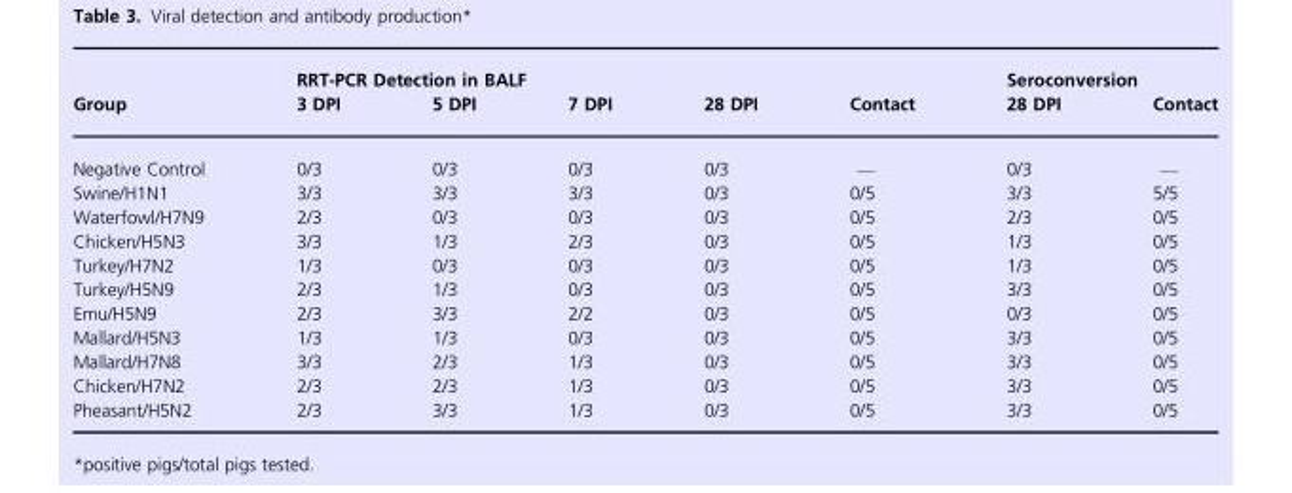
<table><thead><tr><td rowspan="2">Group</td><td colspan="5">RRT-PCR Detection in BALF</td><td colspan="2">Seroconversion</td></tr><tr><td>3 DPI</td><td>5 DPI</td><td>7 DPI</td><td>28 DPI</td><td>Contact</td><td>28 DPI</td><td>Contact</td></tr></thead><tbody><tr><td>Negative Control</td><td>0/3</td><td>0/3</td><td>0/3</td><td>0/3</td><td>—</td><td>0/3</td><td>—</td></tr><tr><td>Swine/H1N1</td><td>3/3</td><td>3/3</td><td>3/3</td><td>0/3</td><td>0/5</td><td>3/3</td><td>5/5</td></tr><tr><td>Waterfowl/H7N9</td><td>2/3</td><td>0/3</td><td>0/3</td><td>0/3</td><td>0/5</td><td>2/3</td><td>0/5</td></tr><tr><td>Chicken/H5N3</td><td>3/3</td><td>1/3</td><td>2/3</td><td>0/3</td><td>0/5</td><td>1/3</td><td>0/5</td></tr><tr><td>Turkey/H7N2</td><td>1/3</td><td>0/3</td><td>0/3</td><td>0/3</td><td>0/5</td><td>1/3</td><td>0/5</td></tr><tr><td>Turkey/H5N9</td><td>2/3</td><td>1/3</td><td>0/3</td><td>0/3</td><td>0/5</td><td>3/3</td><td>0/5</td></tr><tr><td>Emu/H5N9</td><td>2/3</td><td>3/3</td><td>2/2</td><td>0/3</td><td>0/5</td><td>0/3</td><td>0/5</td></tr><tr><td>Mallard/H5N3</td><td>1/3</td><td>1/3</td><td>0/3</td><td>0/3</td><td>0/5</td><td>3/3</td><td>0/5</td></tr><tr><td>Mallard/H7N8</td><td>3/3</td><td>2/3</td><td>1/3</td><td>0/3</td><td>0/5</td><td>3/3</td><td>0/5</td></tr><tr><td>Chicken/H7N2</td><td>2/3</td><td>2/3</td><td>1/3</td><td>0/3</td><td>0/5</td><td>3/3</td><td>0/5</td></tr><tr><td>Pheasant/H5N2</td><td>2/3</td><td>3/3</td><td>1/3</td><td>0/3</td><td>0/5</td><td>3/3</td><td>0/5</td></tr></tbody></table>